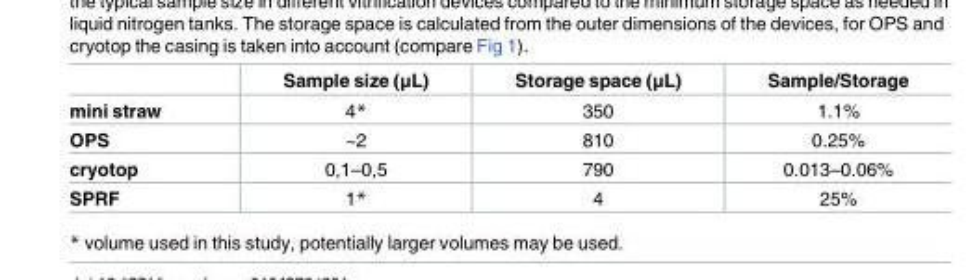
<table><thead><tr><td></td><td>Sample size (μL)</td><td>Storage space (μL)</td><td>Sample/Storage</td></tr></thead><tbody><tr><td>mini straw</td><td>4*</td><td>350</td><td>1.1%</td></tr><tr><td>OPS</td><td>~2</td><td>810</td><td>0.25%</td></tr><tr><td>cryotop</td><td>0,1–0,5</td><td>790</td><td>0.013–0.06%</td></tr><tr><td>SPRF</td><td>1*</td><td>4</td><td>25%</td></tr></tbody></table>